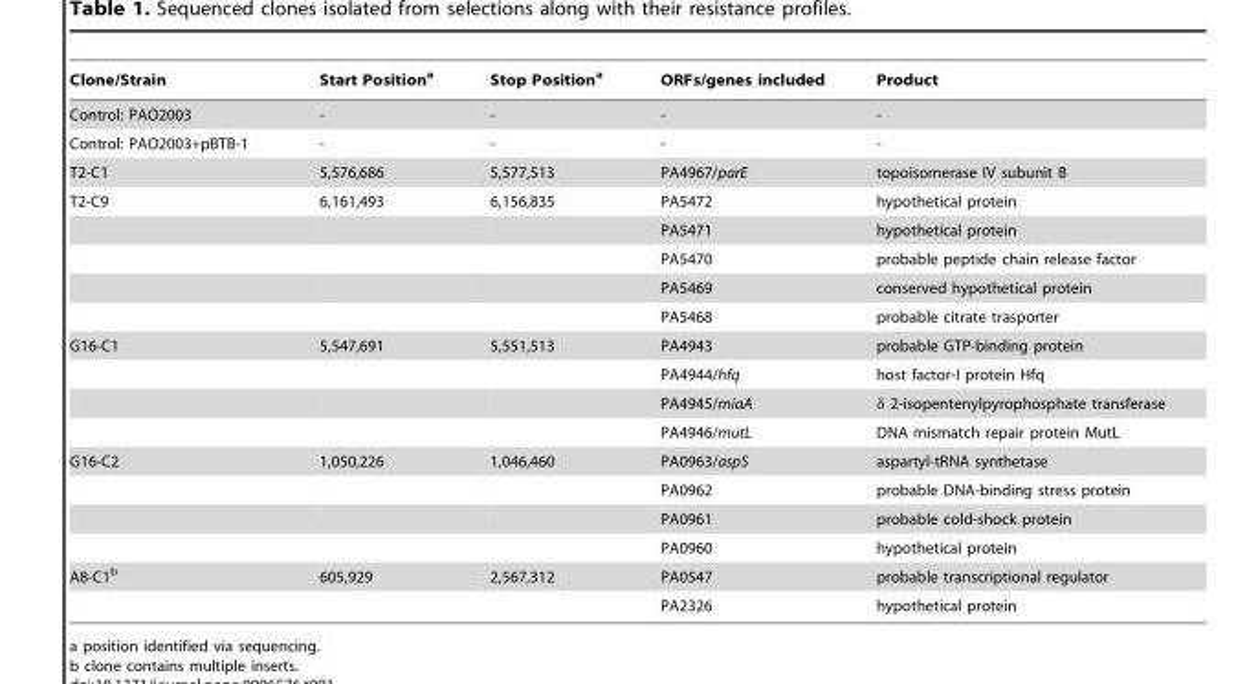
<table><thead><tr><td>Clone/Strain</td><td>Start Position<sup>a</sup></td><td>Stop Position<sup>a</sup></td><td>ORFs/genes included</td><td>Product</td></tr></thead><tbody><tr><td>Control: PAO2003</td><td>-</td><td>-</td><td>-</td><td>-</td></tr><tr><td>Control: PAO2003+pBTB-1</td><td>-</td><td>-</td><td>-</td><td>-</td></tr><tr><td>T2-C1</td><td>5,576,686</td><td>5,577,513</td><td>PA4967/parE</td><td>topoisomerase IV subunit B</td></tr><tr><td rowspan="5">T2-C9</td><td>6,161,493</td><td>6,156,835</td><td>PA5472</td><td>hypothetical protein</td></tr><tr><td></td><td></td><td>PA5471</td><td>hypothetical protein</td></tr><tr><td></td><td></td><td>PA5470</td><td>probable peptide chain release factor</td></tr><tr><td></td><td></td><td>PA5469</td><td>conserved hypothetical protein</td></tr><tr><td></td><td></td><td>PA5468</td><td>probable citrate trasporter</td></tr><tr><td rowspan="4">G16-C1</td><td>5,547,691</td><td>5,551,513</td><td>PA4943</td><td>probable GTP-binding protein</td></tr><tr><td></td><td></td><td>PA4944/hfq</td><td>host factor-I protein Hfq</td></tr><tr><td></td><td></td><td>PA4945/miaA</td><td>δ 2-isopentenylpyrophosphate transferase</td></tr><tr><td></td><td></td><td>PA4946/mutL</td><td>DNA mismatch repair protein MutL</td></tr><tr><td rowspan="4">G16-C2</td><td>1,050,226</td><td>1,046,460</td><td>PA0963/aspS</td><td>aspartyl-tRNA synthetase</td></tr><tr><td></td><td></td><td>PA0962</td><td>probable DNA-binding stress protein</td></tr><tr><td></td><td></td><td>PA0961</td><td>probable cold-shock protein</td></tr><tr><td></td><td></td><td>PA0960</td><td>hypothetical protein</td></tr><tr><td rowspan="2">A8-C1<sup>b</sup></td><td>605,929</td><td>2,567,312</td><td>PA0547</td><td>probable transcriptional regulator</td></tr><tr><td></td><td></td><td>PA2326</td><td>hypothetical protein</td></tr></tbody></table>